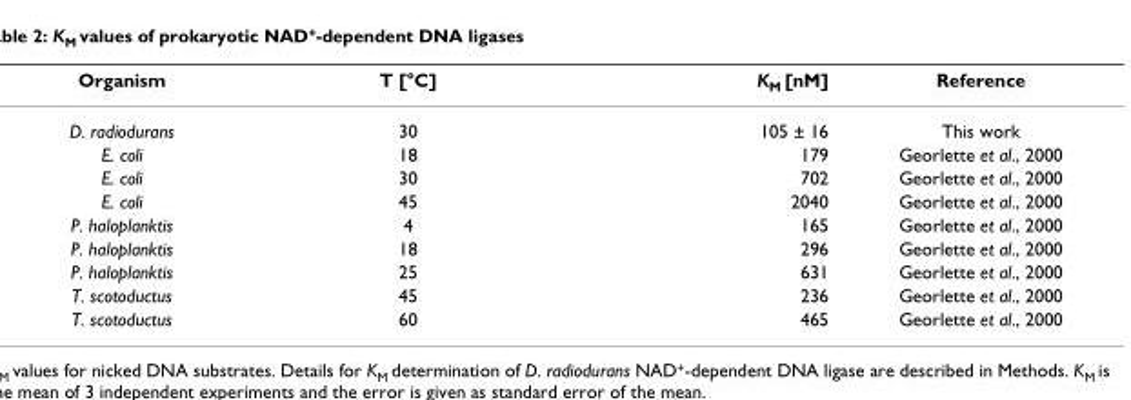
<table><thead><tr><td>Organism</td><td>T [°C]</td><td>KM [nM]</td><td>Reference</td></tr></thead><tbody><tr><td>D. radiodurans</td><td>30</td><td>105 ± 16</td><td>This work</td></tr><tr><td>E. coli</td><td>18</td><td>179</td><td>Georlette et al., 2000</td></tr><tr><td>E. coli</td><td>30</td><td>702</td><td>Georlette et al., 2000</td></tr><tr><td>E. coli</td><td>45</td><td>2040</td><td>Georlette et al., 2000</td></tr><tr><td>P. haloplanktis</td><td>4</td><td>165</td><td>Georlette et al., 2000</td></tr><tr><td>P. haloplanktis</td><td>18</td><td>296</td><td>Georlette et al., 2000</td></tr><tr><td>P. haloplanktis</td><td>25</td><td>631</td><td>Georlette et al., 2000</td></tr><tr><td>T. scotoductus</td><td>45</td><td>236</td><td>Georlette et al., 2000</td></tr><tr><td>T. scotoductus</td><td>60</td><td>465</td><td>Georlette et al., 2000</td></tr></tbody></table>